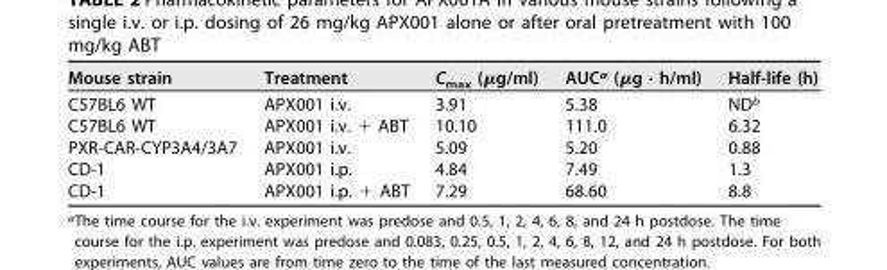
<table><thead><tr><td>Mouse strain</td><td>Treatment</td><td>C<sub>max</sub> (μg/ml)</td><td>AUC<sup>a</sup> (μg · h/ml)</td><td>Half-life (h)</td></tr></thead><tbody><tr><td>C57BL6 WT</td><td>APX001 i.v.</td><td>3.91</td><td>5.38</td><td>ND<sup>b</sup></td></tr><tr><td>C57BL6 WT</td><td>APX001 i.v. + ABT</td><td>10.10</td><td>111.0</td><td>6.32</td></tr><tr><td>PXR-CAR-CYP3A4/3A7</td><td>APX001 i.v.</td><td>5.09</td><td>5.20</td><td>0.88</td></tr><tr><td>CD-1</td><td>APX001 i.p.</td><td>4.84</td><td>7.49</td><td>1.3</td></tr><tr><td>CD-1</td><td>APX001 i.p. + ABT</td><td>7.29</td><td>68.60</td><td>8.8</td></tr></tbody></table>